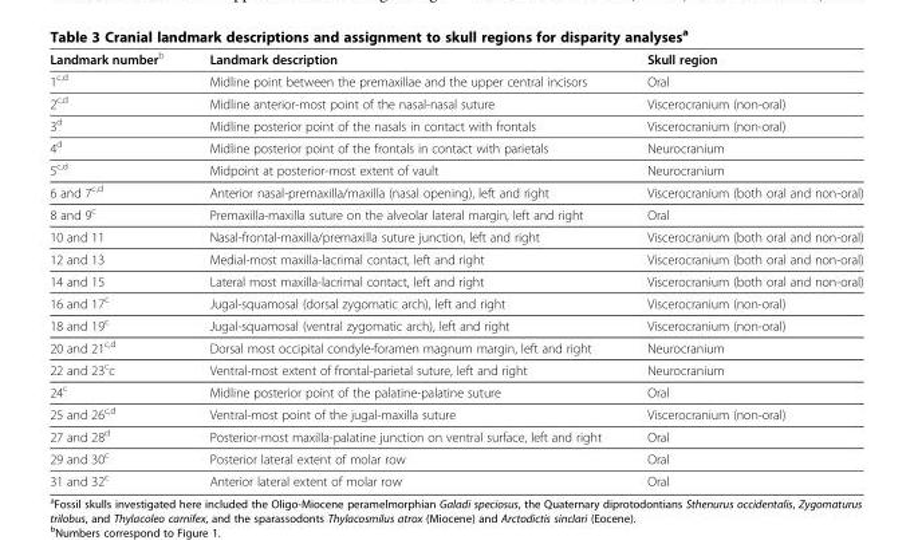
<table><thead><tr><td>Landmark number<sup>b</sup></td><td>Landmark description</td><td>Skull region</td></tr></thead><tbody><tr><td>1<sup>c,d</sup></td><td>Midline point between the premaxillae and the upper central incisors</td><td>Oral</td></tr><tr><td>2<sup>c,d</sup></td><td>Midline anterior-most point of the nasal-nasal suture</td><td>Viscerocranium (non-oral)</td></tr><tr><td>3<sup>d</sup></td><td>Midline posterior point of the nasals in contact with frontals</td><td>Viscerocranium (non-oral)</td></tr><tr><td>4<sup>d</sup></td><td>Midline posterior point of the frontals in contact with parietals</td><td>Neurocranium</td></tr><tr><td>5<sup>c,d</sup></td><td>Midpoint at posterior-most extent of vault</td><td>Neurocranium</td></tr><tr><td>6 and 7<sup>c,d</sup></td><td>Anterior nasal-premaxilla/maxilla (nasal opening), left and right</td><td>Viscerocranium (both oral and non-oral)</td></tr><tr><td>8 and 9<sup>c</sup></td><td>Premaxilla-maxilla suture on the alveolar lateral margin, left and right</td><td>Oral</td></tr><tr><td>10 and 11</td><td>Nasal-frontal-maxilla/premaxilla suture junction, left and right</td><td>Viscerocranium (both oral and non-oral)</td></tr><tr><td>12 and 13</td><td>Medial-most maxilla-lacrimal contact, left and right</td><td>Viscerocranium (both oral and non-oral)</td></tr><tr><td>14 and 15</td><td>Lateral most maxilla-lacrimal contact, left and right</td><td>Viscerocranium (both oral and non-oral)</td></tr><tr><td>16 and 17<sup>c</sup></td><td>Jugal-squamosal (dorsal zygomatic arch), left and right</td><td>Viscerocranium (non-oral)</td></tr><tr><td>18 and 19<sup>c</sup></td><td>Jugal-squamosal (ventral zygomatic arch), left and right</td><td>Viscerocranium (non-oral)</td></tr><tr><td>20 and 21<sup>c,d</sup></td><td>Dorsal most occipital condyle-foramen magnum margin, left and right</td><td>Neurocranium</td></tr><tr><td>22 and 23<sup>c</sup>c</td><td>Ventral-most extent of frontal-parietal suture, left and right</td><td>Neurocranium</td></tr><tr><td>24<sup>c</sup></td><td>Midline posterior point of the palatine-palatine suture</td><td>Oral</td></tr><tr><td>25 and 26<sup>c,d</sup></td><td>Ventral-most point of the jugal-maxilla suture</td><td>Viscerocranium (non-oral)</td></tr><tr><td>27 and 28<sup>d</sup></td><td>Posterior-most maxilla-palatine junction on ventral surface, left and right</td><td>Oral</td></tr><tr><td>29 and 30<sup>c</sup></td><td>Posterior lateral extent of molar row</td><td>Oral</td></tr><tr><td>31 and 32<sup>c</sup></td><td>Anterior lateral extent of molar row</td><td>Oral</td></tr></tbody></table>